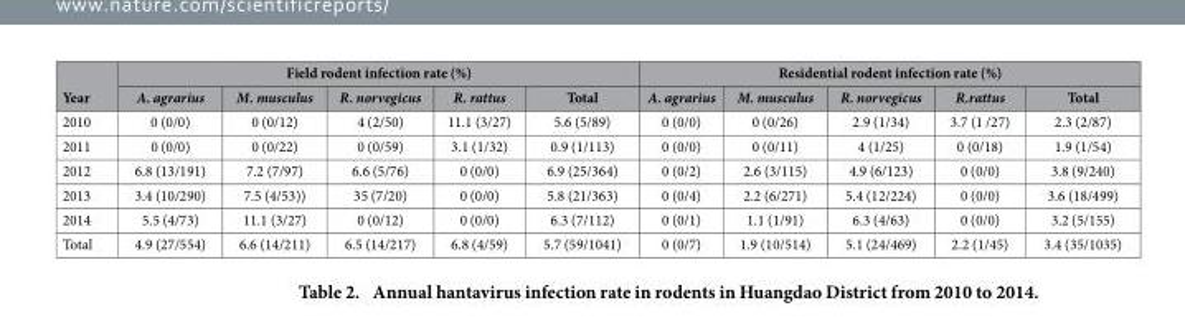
<table><thead><tr><td rowspan="2">Year</td><td colspan="5">Field rodent infection rate (%)</td><td colspan="5">Residential rodent infection rate (%)</td></tr><tr><td>A. agrarius</td><td>M. musculus</td><td>R. norvegicus</td><td>R. rattus</td><td>Total</td><td>A. agrarius</td><td>M. musculus</td><td>R. norvegicus</td><td>R.rattus</td><td>Total</td></tr></thead><tbody><tr><td>2010</td><td>0 (0/0)</td><td>0 (0/12)</td><td>4 (2/50)</td><td>11.1 (3/27)</td><td>5.6 (5/89)</td><td>0 (0/0)</td><td>0 (0/26)</td><td>2.9 (1/34)</td><td>3.7 (1 /27)</td><td>2.3 (2/87)</td></tr><tr><td>2011</td><td>0 (0/0)</td><td>0 (0/22)</td><td>0 (0/59)</td><td>3.1 (1/32)</td><td>0.9 (1/113)</td><td>0 (0/0)</td><td>0 (0/11)</td><td>4 (1/25)</td><td>0 (0/18)</td><td>1.9 (1/54)</td></tr><tr><td>2012</td><td>6.8 (13/191)</td><td>7.2 (7/97)</td><td>6.6 (5/76)</td><td>0 (0/0)</td><td>6.9 (25/364)</td><td>0 (0/2)</td><td>2.6 (3/115)</td><td>4.9 (6/123)</td><td>0 (0/0)</td><td>3.8 (9/240)</td></tr><tr><td>2013</td><td>3.4 (10/290)</td><td>7.5 (4/53))</td><td>35 (7/20)</td><td>0 (0/0)</td><td>5.8 (21/363)</td><td>0 (0/4)</td><td>2.2 (6/271)</td><td>5.4 (12/224)</td><td>0 (0/0)</td><td>3.6 (18/499)</td></tr><tr><td>2014</td><td>5.5 (4/73)</td><td>11.1 (3/27)</td><td>0 (0/12)</td><td>0 (0/0)</td><td>6.3 (7/112)</td><td>0 (0/1)</td><td>1.1 (1/91)</td><td>6.3 (4/63)</td><td>0 (0/0)</td><td>3.2 (5/155)</td></tr><tr><td>Total</td><td>4.9 (27/554)</td><td>6.6 (14/211)</td><td>6.5 (14/217)</td><td>6.8 (4/59)</td><td>5.7 (59/1041)</td><td>0 (0/7)</td><td>1.9 (10/514)</td><td>5.1 (24/469)</td><td>2.2 (1/45)</td><td>3.4 (35/1035)</td></tr></tbody></table>